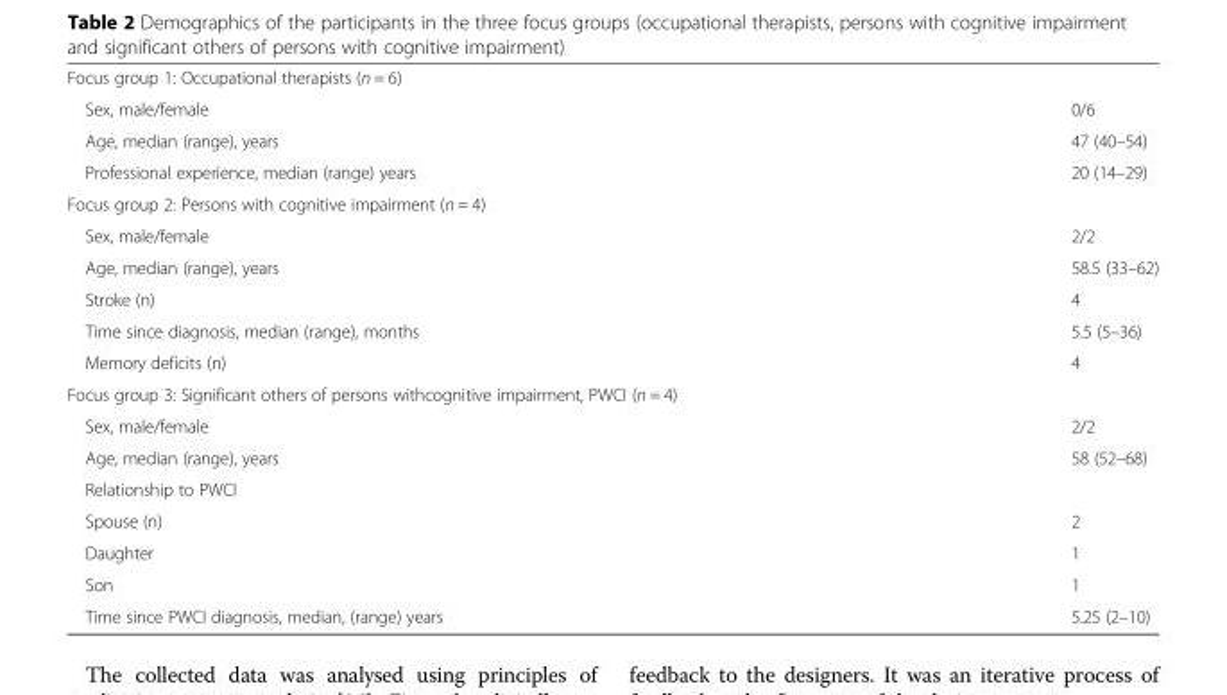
<table><tbody><tr><td colspan="2">Focus group 1: Occupational therapists (n = 6)</td></tr><tr><td>Sex, male/female</td><td>0/6</td></tr><tr><td>Age, median (range), years</td><td>47 (40–54)</td></tr><tr><td>Professional experience, median (range) years</td><td>20 (14–29)</td></tr><tr><td colspan="2">Focus group 2: Persons with cognitive impairment (n = 4)</td></tr><tr><td>Sex, male/female</td><td>2/2</td></tr><tr><td>Age, median (range), years</td><td>58.5 (33–62)</td></tr><tr><td>Stroke (n)</td><td>4</td></tr><tr><td>Time since diagnosis, median (range), months</td><td>5.5 (5–36)</td></tr><tr><td>Memory deficits (n)</td><td>4</td></tr><tr><td colspan="2">Focus group 3: Significant others of persons withcognitive impairment, PWCI (n = 4)</td></tr><tr><td>Sex, male/female</td><td>2/2</td></tr><tr><td>Age, median (range), years</td><td>58 (52–68)</td></tr><tr><td colspan="2">Relationship to PWCI</td></tr><tr><td>Spouse (n)</td><td>2</td></tr><tr><td>Daughter</td><td>1</td></tr><tr><td>Son</td><td>1</td></tr><tr><td>Time since PWCI diagnosis, median, (range) years</td><td>5.25 (2–10)</td></tr></tbody></table>